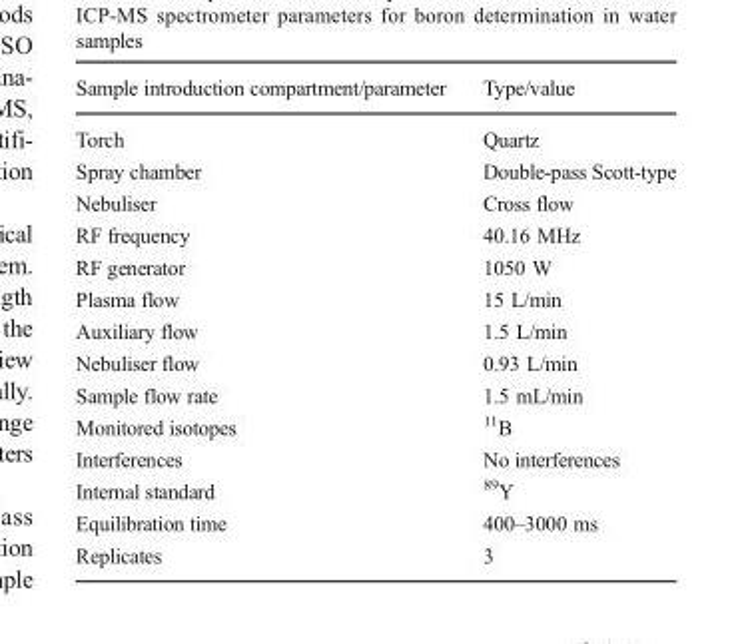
<table><thead><tr><td>Sample introduction compartment/parameter</td><td>Type/value</td></tr></thead><tbody><tr><td>Torch</td><td>Quartz</td></tr><tr><td>Spray chamber</td><td>Double-pass Scott-type</td></tr><tr><td>Nebuliser</td><td>Cross flow</td></tr><tr><td>RF frequency</td><td>40.16 MHz</td></tr><tr><td>RF generator</td><td>1050 W</td></tr><tr><td>Plasma flow</td><td>15 L/min</td></tr><tr><td>Auxiliary flow</td><td>1.5 L/min</td></tr><tr><td>Nebuliser flow</td><td>0.93 L/min</td></tr><tr><td>Sample flow rate</td><td>1.5 mL/min</td></tr><tr><td>Monitored isotopes</td><td><sup>11</sup>B</td></tr><tr><td>Interferences</td><td>No interferences</td></tr><tr><td>Internal standard</td><td><sup>89</sup>Y</td></tr><tr><td>Equilibration time</td><td>400–3000 ms</td></tr><tr><td>Replicates</td><td>3</td></tr></tbody></table>